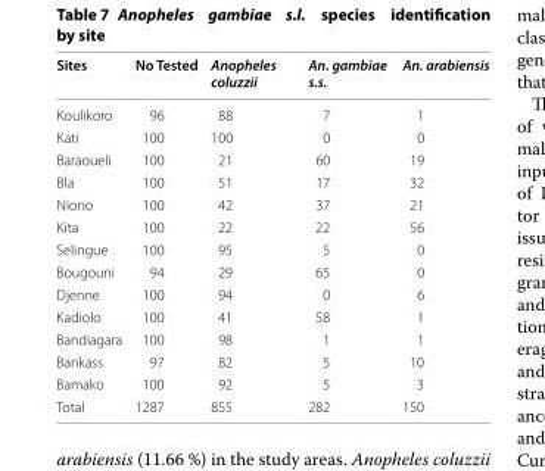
<table><thead><tr><td>Sites</td><td>No Tested</td><td>Anopheles coluzzii</td><td>An. gambiae s.s.</td><td>An. arabiensis</td></tr></thead><tbody><tr><td>Koulikoro</td><td>96</td><td>88</td><td>7</td><td>1</td></tr><tr><td>Kati</td><td>100</td><td>100</td><td>0</td><td>0</td></tr><tr><td>Baraoueli</td><td>100</td><td>21</td><td>60</td><td>19</td></tr><tr><td>Bla</td><td>100</td><td>51</td><td>17</td><td>32</td></tr><tr><td>Niono</td><td>100</td><td>42</td><td>37</td><td>21</td></tr><tr><td>Kita</td><td>100</td><td>22</td><td>22</td><td>56</td></tr><tr><td>Selingue</td><td>100</td><td>95</td><td>5</td><td>0</td></tr><tr><td>Bougouni</td><td>94</td><td>29</td><td>65</td><td>0</td></tr><tr><td>Djenne</td><td>100</td><td>94</td><td>0</td><td>6</td></tr><tr><td>Kadiolo</td><td>100</td><td>41</td><td>58</td><td>1</td></tr><tr><td>Bandiagara</td><td>100</td><td>98</td><td>1</td><td>1</td></tr><tr><td>Bankass</td><td>97</td><td>82</td><td>5</td><td>10</td></tr><tr><td>Bamako</td><td>100</td><td>92</td><td>5</td><td>3</td></tr><tr><td>Total</td><td>1287</td><td>855</td><td>282</td><td>150</td></tr></tbody></table>